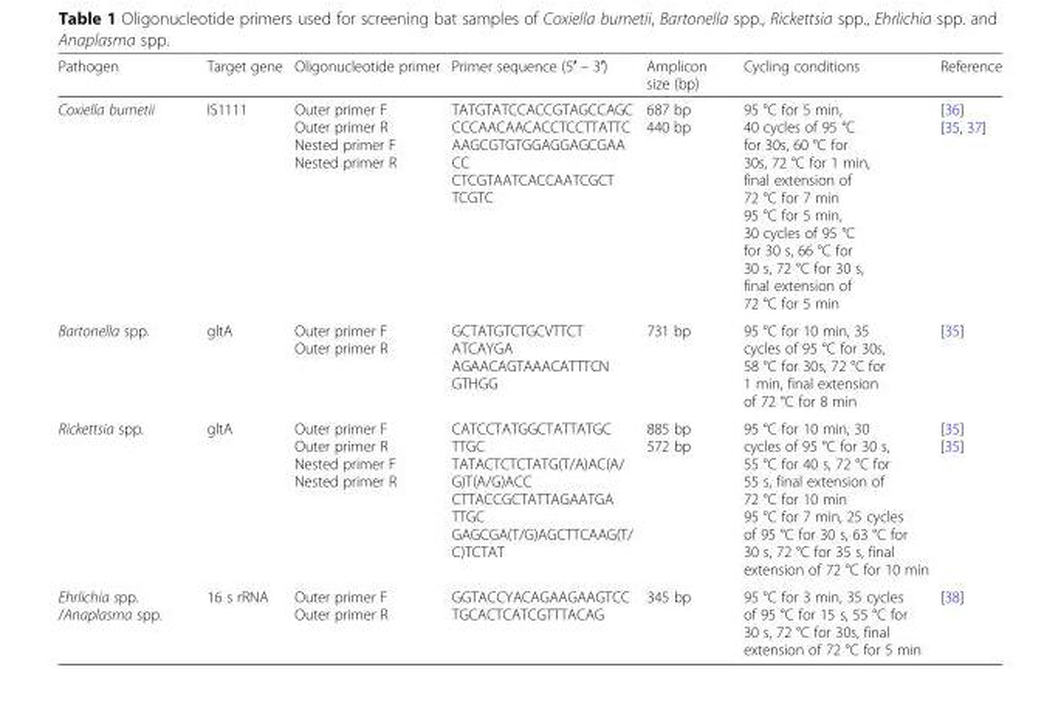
<table><thead><tr><td>Pathogen</td><td>Target gene</td><td>Oligonucleotide primer</td><td>Primer sequence (5′ – 3′)</td><td>Amplicon size (bp)</td><td>Cycling conditions</td><td>Reference</td></tr></thead><tbody><tr><td>Coxiella burnetii</td><td>IS1111</td><td>Outer primer F Outer primer R Nested primer F Nested primer R</td><td>TATGTATCCACCGTAGCCAGC CCCAACAACACCTCCTTATTC AAGCGTGTGGAGGAGCGAA CC CTCGTAATCACCAATCGCT TCGTC</td><td>687 bp 440 bp</td><td>95 °C for 5 min, 40 cycles of 95 °C for 30s, 60 °C for 30s, 72 °C for 1 min, final extension of 72 °C for 7 min 95 °C for 5 min, 30 cycles of 95 °C for 30 s, 66 °C for 30 s, 72 °C for 30 s, final extension of 72 °C for 5 min</td><td>[36] [35, 37]</td></tr><tr><td>Bartonella spp.</td><td>gltA</td><td>Outer primer F Outer primer R</td><td>GCTATGTCTGCVTTCT ATCAYGA AGAACAGTAAACATTTCN GTHGG</td><td>731 bp</td><td>95 °C for 10 min, 35 cycles of 95 °C for 30s, 58 °C for 30s, 72 °C for 1 min, final extension of 72 °C for 8 min</td><td>[35]</td></tr><tr><td>Rickettsia spp.</td><td>gltA</td><td>Outer primer F Outer primer R Nested primer F Nested primer R</td><td>CATCCTATGGCTATTATGC TTGC TATACTCTCTATG(T/A)AC(A/ G)T(A/G)ACC CTTACCGCTATTAGAATGA TTGC GAGCGA(T/G)AGCTTCAAG(T/ C)TCTAT</td><td>885 bp 572 bp</td><td>95 °C for 10 min, 30 cycles of 95 °C for 30 s, 55 °C for 40 s, 72 °C for 55 s, final extension of 72 °C for 10 min 95 °C for 7 min, 25 cycles of 95 °C for 30 s, 63 °C for 30 s, 72 °C for 35 s, final extension of 72 °C for 10 min</td><td>[35] [35]</td></tr><tr><td>Ehrlichia spp. /Anaplasma spp.</td><td>16 s rRNA</td><td>Outer primer F Outer primer R</td><td>GGTACCYACAGAAGAAGTCC TGCACTCATCGTTTACAG</td><td>345 bp</td><td>95 °C for 3 min, 35 cycles of 95 °C for 15 s, 55 °C for 30 s, 72 °C for 30s, final extension of 72 °C for 5 min</td><td>[38]</td></tr></tbody></table>